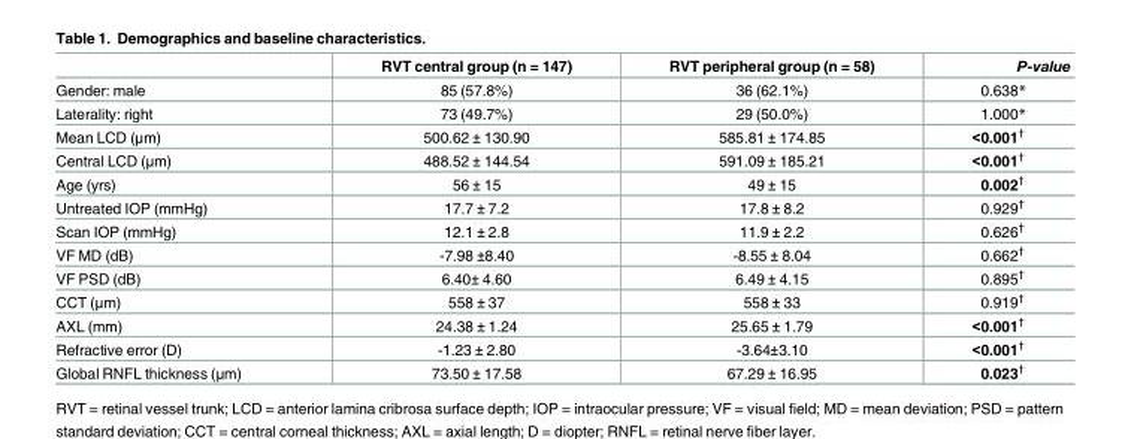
<table><thead><tr><td></td><td>RVT central group (n = 147)</td><td>RVT peripheral group (n = 58)</td><td>P-value</td></tr></thead><tbody><tr><td>Gender: male</td><td>85 (57.8%)</td><td>36 (62.1%)</td><td>0.638*</td></tr><tr><td>Laterality: right</td><td>73 (49.7%)</td><td>29 (50.0%)</td><td>1.000*</td></tr><tr><td>Mean LCD (μm)</td><td>500.62 ± 130.90</td><td>585.81 ± 174.85</td><td>&lt;0.001<sup>†</sup></td></tr><tr><td>Central LCD (μm)</td><td>488.52 ± 144.54</td><td>591.09 ± 185.21</td><td>&lt;0.001<sup>†</sup></td></tr><tr><td>Age (yrs)</td><td>56 ± 15</td><td>49 ± 15</td><td>0.002<sup>†</sup></td></tr><tr><td>Untreated IOP (mmHg)</td><td>17.7 ± 7.2</td><td>17.8 ± 8.2</td><td>0.929<sup>†</sup></td></tr><tr><td>Scan IOP (mmHg)</td><td>12.1 ± 2.8</td><td>11.9 ± 2.2</td><td>0.626<sup>†</sup></td></tr><tr><td>VF MD (dB)</td><td>-7.98 ±8.40</td><td>-8.55 ± 8.04</td><td>0.662<sup>†</sup></td></tr><tr><td>VF PSD (dB)</td><td>6.40± 4.60</td><td>6.49 ± 4.15</td><td>0.895<sup>†</sup></td></tr><tr><td>CCT (μm)</td><td>558 ± 37</td><td>558 ± 33</td><td>0.919<sup>†</sup></td></tr><tr><td>AXL (mm)</td><td>24.38 ± 1.24</td><td>25.65 ± 1.79</td><td>&lt;0.001<sup>†</sup></td></tr><tr><td>Refractive error (D)</td><td>-1.23 ± 2.80</td><td>-3.64±3.10</td><td>&lt;0.001<sup>†</sup></td></tr><tr><td>Global RNFL thickness (μm)</td><td>73.50 ± 17.58</td><td>67.29 ± 16.95</td><td>0.023<sup>†</sup></td></tr></tbody></table>